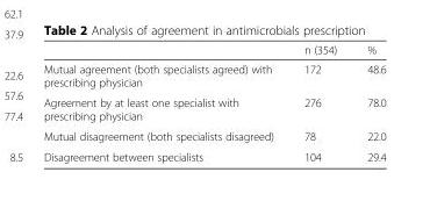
<table><thead><tr><td></td><td>n (354)</td><td>%</td></tr></thead><tbody><tr><td>Mutual agreement (both specialists agreed) with prescribing physician</td><td>172</td><td>48.6</td></tr><tr><td>Agreement by at least one specialist with prescribing physician</td><td>276</td><td>78.0</td></tr><tr><td>Mutual disagreement (both specialists disagreed)</td><td>78</td><td>22.0</td></tr><tr><td>Disagreement between specialists</td><td>104</td><td>29.4</td></tr></tbody></table>